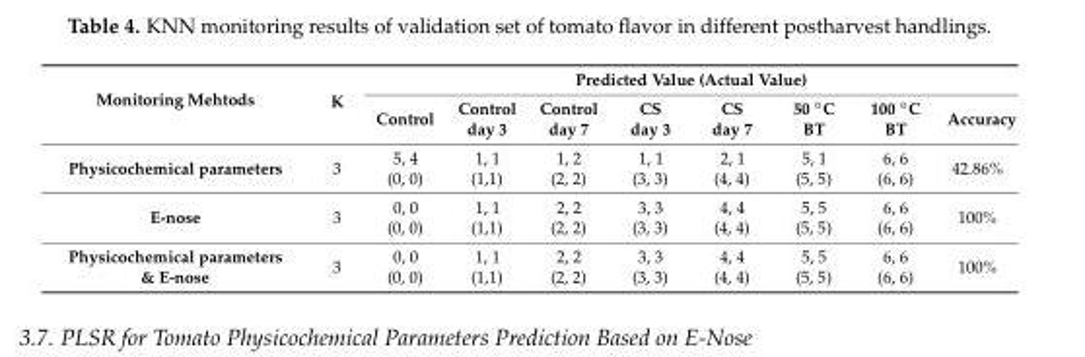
<table><thead><tr><td rowspan="2">Monitoring Mehtods</td><td rowspan="2">K</td><td colspan="8">Predicted Value (Actual Value)</td></tr><tr><td>Control</td><td>Control day 3</td><td>Control day 7</td><td>CS day 3</td><td>CS day 7</td><td>50 ◦C BT</td><td>100 ◦C BT</td><td>Accuracy</td></tr></thead><tbody><tr><td>Physicochemical parameters</td><td>3</td><td>5, 4 (0, 0)</td><td>1, 1 (1,1)</td><td>1, 2 (2, 2)</td><td>1, 1 (3, 3)</td><td>2, 1 (4, 4)</td><td>5, 1 (5, 5)</td><td>6, 6 (6, 6)</td><td>42.86%</td></tr><tr><td>E-nose</td><td>3</td><td>0, 0 (0, 0)</td><td>1, 1 (1,1)</td><td>2, 2 (2, 2)</td><td>3, 3 (3, 3)</td><td>4, 4 (4, 4)</td><td>5, 5 (5, 5)</td><td>6, 6 (6, 6)</td><td>100%</td></tr><tr><td>Physicochemical parameters &amp; E-nose</td><td>3</td><td>0, 0 (0, 0)</td><td>1, 1 (1,1)</td><td>2, 2 (2, 2)</td><td>3, 3 (3, 3)</td><td>4, 4 (4, 4)</td><td>5, 5 (5, 5)</td><td>6, 6 (6, 6)</td><td>100%</td></tr></tbody></table>